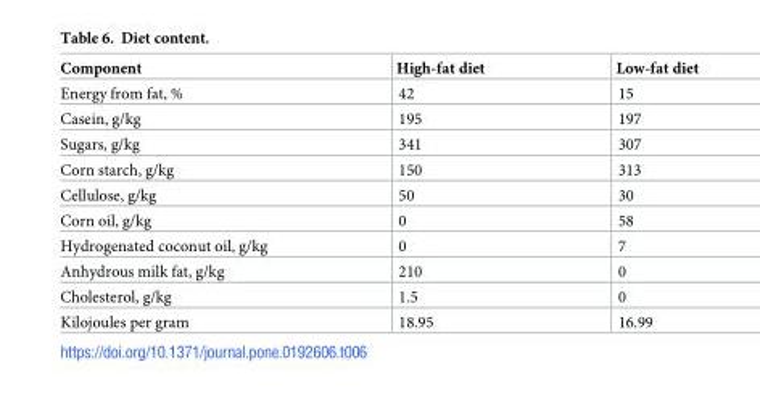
<table><thead><tr><td>Component</td><td>High-fat diet</td><td>Low-fat diet</td></tr></thead><tbody><tr><td>Energy from fat, %</td><td>42</td><td>15</td></tr><tr><td>Casein, g/kg</td><td>195</td><td>197</td></tr><tr><td>Sugars, g/kg</td><td>341</td><td>307</td></tr><tr><td>Corn starch, g/kg</td><td>150</td><td>313</td></tr><tr><td>Cellulose, g/kg</td><td>50</td><td>30</td></tr><tr><td>Corn oil, g/kg</td><td>0</td><td>58</td></tr><tr><td>Hydrogenated coconut oil, g/kg</td><td>0</td><td>7</td></tr><tr><td>Anhydrous milk fat, g/kg</td><td>210</td><td>0</td></tr><tr><td>Cholesterol, g/kg</td><td>1.5</td><td>0</td></tr><tr><td>Kilojoules per gram</td><td>18.95</td><td>16.99</td></tr></tbody></table>